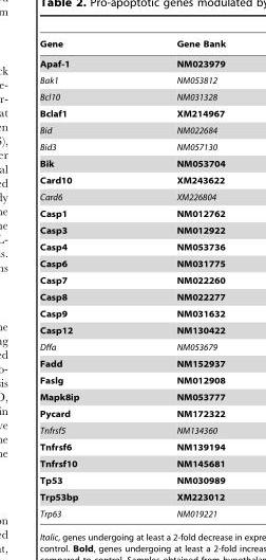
<table><thead><tr><td>Gene</td><td>Gene Bank</td></tr></thead><tbody><tr><td>Apaf-1</td><td>NM023979</td></tr><tr><td>Bak1</td><td>NM053812</td></tr><tr><td>Bcl10</td><td>NM031328</td></tr><tr><td>Bclaf1</td><td>XM214967</td></tr><tr><td>Bid</td><td>NM022684</td></tr><tr><td>Bid3</td><td>NM057130</td></tr><tr><td>Bik</td><td>NM053704</td></tr><tr><td>Card10</td><td>XM243622</td></tr><tr><td>Card6</td><td>XM226804</td></tr><tr><td>Casp1</td><td>NM012762</td></tr><tr><td>Casp3</td><td>NM012922</td></tr><tr><td>Casp4</td><td>NM053736</td></tr><tr><td>Casp6</td><td>NM031775</td></tr><tr><td>Casp7</td><td>NM022260</td></tr><tr><td>Casp8</td><td>NM022277</td></tr><tr><td>Casp9</td><td>NM031632</td></tr><tr><td>Casp12</td><td>NM130422</td></tr><tr><td>Dffa</td><td>NM053679</td></tr><tr><td>Fadd</td><td>NM152937</td></tr><tr><td>Faslg</td><td>NM012908</td></tr><tr><td>Mapk8ip</td><td>NM053777</td></tr><tr><td>Pycard</td><td>NM172322</td></tr><tr><td>Tnfrsf5</td><td>NM134360</td></tr><tr><td>Tnfrsf6</td><td>NM139194</td></tr><tr><td>Tnfrsf10</td><td>NM145681</td></tr><tr><td>Tp53</td><td>NM030989</td></tr><tr><td>Trp53bp</td><td>XM223012</td></tr><tr><td>Trp63</td><td>NM019221</td></tr></tbody></table>